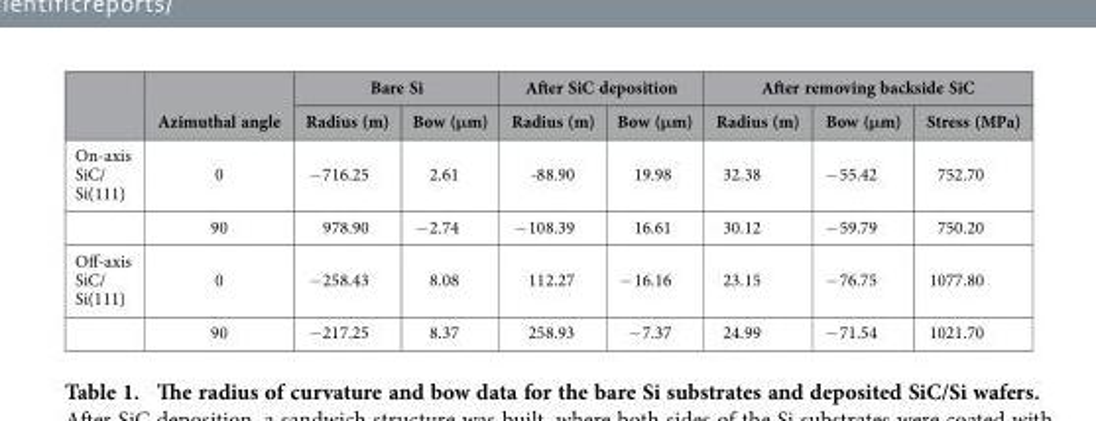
<table><thead><tr><td rowspan="2"></td><td rowspan="2">Azimuthal angle</td><td colspan="2">Bare Si</td><td colspan="2">After SiC deposition</td><td colspan="3">After removing backside SiC</td></tr><tr><td>Radius (m)</td><td>Bow (μm)</td><td>Radius (m)</td><td>Bow (μm)</td><td>Radius (m)</td><td>Bow (μm)</td><td>Stress (MPa)</td></tr></thead><tbody><tr><td rowspan="2">On-axis SiC/ Si(111)</td><td>0</td><td>− 716.25</td><td>2.61</td><td>-88.90</td><td>19.98</td><td>32.38</td><td>− 55.42</td><td>752.70</td></tr><tr><td>90</td><td>978.90</td><td>− 2.74</td><td>− 108.39</td><td>16.61</td><td>30.12</td><td>− 59.79</td><td>750.20</td></tr><tr><td rowspan="2">Off-axis SiC/ Si(111)</td><td>0</td><td>− 258.43</td><td>8.08</td><td>112.27</td><td>− 16.16</td><td>23.15</td><td>− 76.75</td><td>1077.80</td></tr><tr><td>90</td><td>− 217.25</td><td>8.37</td><td>258.93</td><td>− 7.37</td><td>24.99</td><td>− 71.54</td><td>1021.70</td></tr></tbody></table>